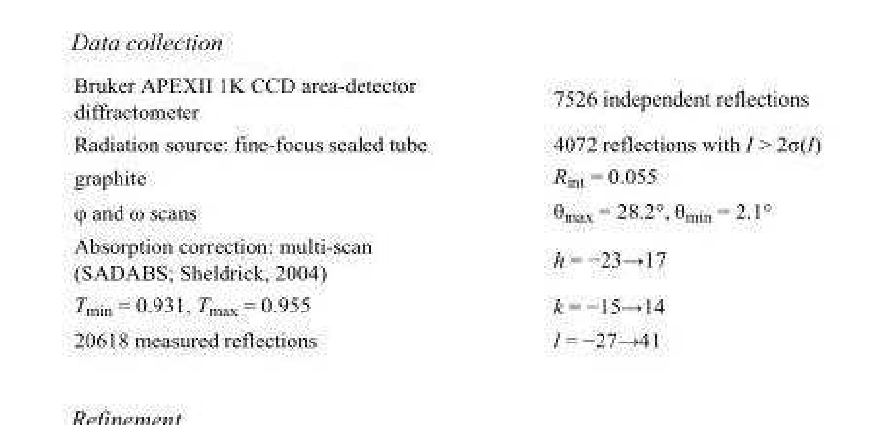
<table><tbody><tr><td>Bruker APEXII 1K CCD area-detector diffractometer</td><td>7526 independent reflections</td></tr><tr><td>Radiation source: fine-focus sealed tube</td><td>4072 reflections with I &gt; 2σ(I)</td></tr><tr><td>graphite</td><td>R<sub>int</sub> = 0.055</td></tr><tr><td>φ and ω scans</td><td>θ<sub>max</sub> = 28.2°, θ<sub>min</sub> = 2.1°</td></tr><tr><td>Absorption correction: multi-scan (SADABS; Sheldrick, 2004)</td><td>h = −23→17</td></tr><tr><td>T<sub>min</sub> = 0.931, T<sub>max</sub> = 0.955</td><td>k = −15→14</td></tr><tr><td>20618 measured reflections</td><td>l = −27→41</td></tr></tbody></table>